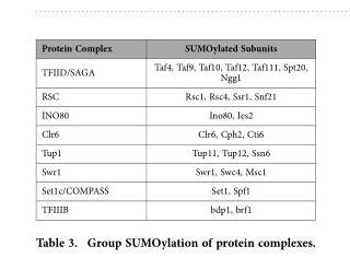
<table><thead><tr><td>Protein Complex</td><td>SUMOylated Subunits</td></tr></thead><tbody><tr><td>TFIID/SAGA</td><td>Taf4, Taf9, Taf10, Taf12, Taf111, Spt20, Ngg1</td></tr><tr><td>RSC</td><td>Rsc1, Rsc4, Ssr1, Snf21</td></tr><tr><td>INO80</td><td>Ino80, Ies2</td></tr><tr><td>Clr6</td><td>Clr6, Cph2, Cti6</td></tr><tr><td>Tup1</td><td>Tup11, Tup12, Ssn6</td></tr><tr><td>Swr1</td><td>Swr1, Swc4, Msc1</td></tr><tr><td>Set1c/COMPASS</td><td>Set1, Spf1</td></tr><tr><td>TFIIIB</td><td>bdp1, brf1</td></tr></tbody></table>